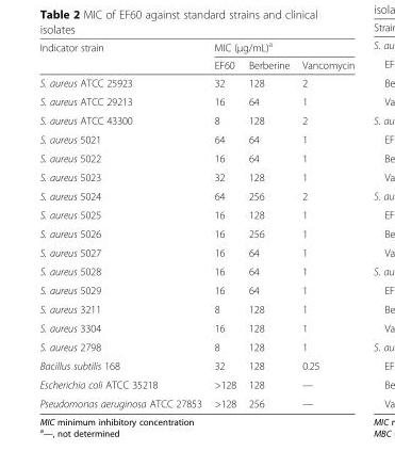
<table><thead><tr><td rowspan="2">Indicator strain</td><td colspan="3">MIC (μg/mL)<sup>a</sup></td></tr><tr><td>EF60</td><td>Berberine</td><td>Vancomycin</td></tr></thead><tbody><tr><td>S. aureus ATCC 25923</td><td>32</td><td>128</td><td>2</td></tr><tr><td>S. aureus ATCC 29213</td><td>16</td><td>64</td><td>1</td></tr><tr><td>S. aureus ATCC 43300</td><td>8</td><td>128</td><td>2</td></tr><tr><td>S. aureus 5021</td><td>64</td><td>64</td><td>1</td></tr><tr><td>S. aureus 5022</td><td>16</td><td>64</td><td>1</td></tr><tr><td>S. aureus 5023</td><td>32</td><td>128</td><td>1</td></tr><tr><td>S. aureus 5024</td><td>64</td><td>256</td><td>2</td></tr><tr><td>S. aureus 5025</td><td>16</td><td>128</td><td>1</td></tr><tr><td>S. aureus 5026</td><td>16</td><td>256</td><td>1</td></tr><tr><td>S. aureus 5027</td><td>16</td><td>64</td><td>1</td></tr><tr><td>S. aureus 5028</td><td>16</td><td>64</td><td>1</td></tr><tr><td>S. aureus 5029</td><td>16</td><td>64</td><td>1</td></tr><tr><td>S. aureus 3211</td><td>8</td><td>128</td><td>1</td></tr><tr><td>S. aureus 3304</td><td>16</td><td>128</td><td>1</td></tr><tr><td>S. aureus 2798</td><td>8</td><td>128</td><td>1</td></tr><tr><td>Bacillus subtilis 168</td><td>32</td><td>128</td><td>0.25</td></tr><tr><td>Escherichia coli ATCC 35218</td><td>&gt;128</td><td>128</td><td>—</td></tr><tr><td>Pseudomonas aeruginosa ATCC 27853</td><td>&gt;128</td><td>256</td><td>—</td></tr></tbody></table>